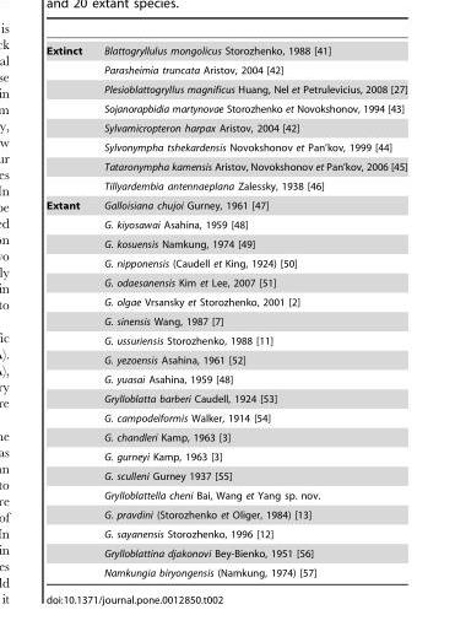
<table><tbody><tr><td rowspan="8">Extinct</td><td>Blattogryllulus mongolicus Storozhenko, 1988 [41]</td></tr><tr><td>Parasheimia truncata Aristov, 2004 [42]</td></tr><tr><td>Plesioblattogryllus magnificus Huang, Nel et Petrulevicius, 2008 [27]</td></tr><tr><td>Sojanorapbidia martynovae Storozhenko et Novokshonov, 1994 [43]</td></tr><tr><td>Sylvamicropteron harpax Aristov, 2004 [42]</td></tr><tr><td>Sylvonympha tshekardensis Novokshonov et Pan’kov, 1999 [44]</td></tr><tr><td>Tataronympha kamensis Aristov, Novokshonov et Pan’kov, 2006 [45]</td></tr><tr><td>Tillyardembia antennaeplana Zalessky, 1938 [46]</td></tr><tr><td rowspan="20">Extant</td><td>Galloisiana chujoi Gurney, 1961 [47]</td></tr><tr><td>G. kiyosawai Asahina, 1959 [48]</td></tr><tr><td>G. kosuensis Namkung, 1974 [49]</td></tr><tr><td>G. nipponensis (Caudell et King, 1924) [50]</td></tr><tr><td>G. odaesanensis Kim et Lee, 2007 [51]</td></tr><tr><td>G. olgae Vrsansky et Storozhenko, 2001 [2]</td></tr><tr><td>G. sinensis Wang, 1987 [7]</td></tr><tr><td>G. ussuriensis Storozhenko, 1988 [11]</td></tr><tr><td>G. yezoensis Asahina, 1961 [52]</td></tr><tr><td>G. yuasai Asahina, 1959 [48]</td></tr><tr><td>Grylloblatta barberi Caudell, 1924 [53]</td></tr><tr><td>G. campodeiformis Walker, 1914 [54]</td></tr><tr><td>G. chandleri Kamp, 1963 [3]</td></tr><tr><td>G. gurneyi Kamp, 1963 [3]</td></tr><tr><td>G. sculleni Gurney 1937 [55]</td></tr><tr><td>Grylloblattella cheni Bai, Wang et Yang sp. nov.</td></tr><tr><td>G. pravdini (Storozhenko et Oliger, 1984) [13]</td></tr><tr><td>G. sayanensis Storozhenko, 1996 [12]</td></tr><tr><td>Grylloblattina djakonovi Bey-Bienko, 1951 [56]</td></tr><tr><td>Namkungia biryongensis (Namkung, 1974) [57]</td></tr></tbody></table>